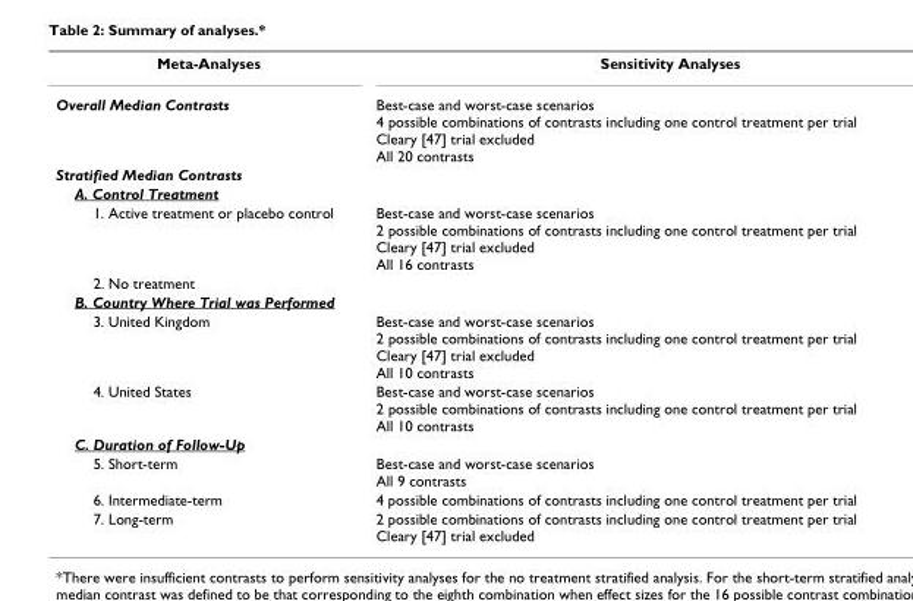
<table><tbody><tr><td>Meta-Analyses</td><td>Sensitivity Analyses</td></tr><tr><td>Overall Median Contrasts</td><td>Best-case and worst-case scenarios 4 possible combinations of contrasts including one control treatment per trial Cleary [47] trial excluded All 20 contrasts</td></tr><tr><td colspan="2">Stratified Median Contrasts</td></tr><tr><td colspan="2">A. Control Treatment</td></tr><tr><td>1. Active treatment or placebo control</td><td>Best-case and worst-case scenarios 2 possible combinations of contrasts including one control treatment per trial Cleary [47] trial excluded All 16 contrasts</td></tr><tr><td colspan="2">2. No treatment</td></tr><tr><td colspan="2">B. Country Where Trial was Performed</td></tr><tr><td>3. United Kingdom</td><td>Best-case and worst-case scenarios 2 possible combinations of contrasts including one control treatment per trial Cleary [47] trial excluded All 10 contrasts</td></tr><tr><td>4. United States</td><td>Best-case and worst-case scenarios 2 possible combinations of contrasts including one control treatment per trial All 10 contrasts</td></tr><tr><td colspan="2">C. Duration of Follow-Up</td></tr><tr><td>5. Short-term</td><td>Best-case and worst-case scenarios All 9 contrasts</td></tr><tr><td>6. Intermediate-term</td><td>4 possible combinations of contrasts including one control treatment per trial</td></tr><tr><td>7. Long-term</td><td>2 possible combinations of contrasts including one control treatment per trial Cleary [47] trial excluded</td></tr></tbody></table>